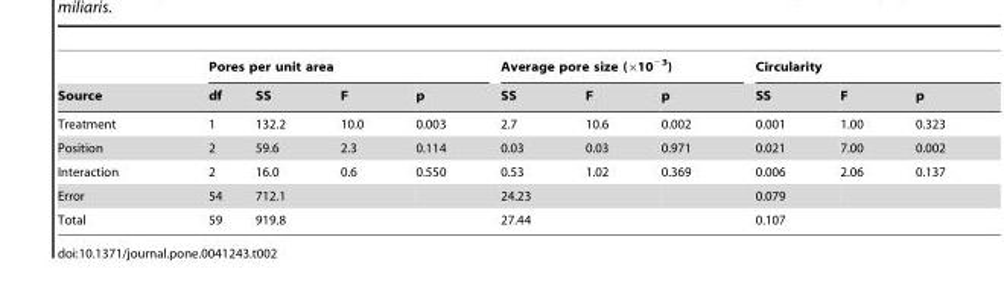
<table><thead><tr><td rowspan="2">Source</td><td colspan="4">Pores per unit area</td><td colspan="3">Average pore size (×10<sup>−3</sup>)</td><td colspan="3">Circularity</td></tr><tr><td>df</td><td>SS</td><td>F</td><td>p</td><td>SS</td><td>F</td><td>p</td><td>SS</td><td>F</td><td>p</td></tr></thead><tbody><tr><td>Treatment</td><td>1</td><td>132.2</td><td>10.0</td><td>0.003</td><td>2.7</td><td>10.6</td><td>0.002</td><td>0.001</td><td>1.00</td><td>0.323</td></tr><tr><td>Position</td><td>2</td><td>59.6</td><td>2.3</td><td>0.114</td><td>0.03</td><td>0.03</td><td>0.971</td><td>0.021</td><td>7.00</td><td>0.002</td></tr><tr><td>Interaction</td><td>2</td><td>16.0</td><td>0.6</td><td>0.550</td><td>0.53</td><td>1.02</td><td>0.369</td><td>0.006</td><td>2.06</td><td>0.137</td></tr><tr><td>Error</td><td>54</td><td>712.1</td><td></td><td></td><td>24.23</td><td></td><td></td><td>0.079</td><td></td><td></td></tr><tr><td>Total</td><td>59</td><td>919.8</td><td></td><td></td><td>27.44</td><td></td><td></td><td>0.107</td><td></td><td></td></tr></tbody></table>